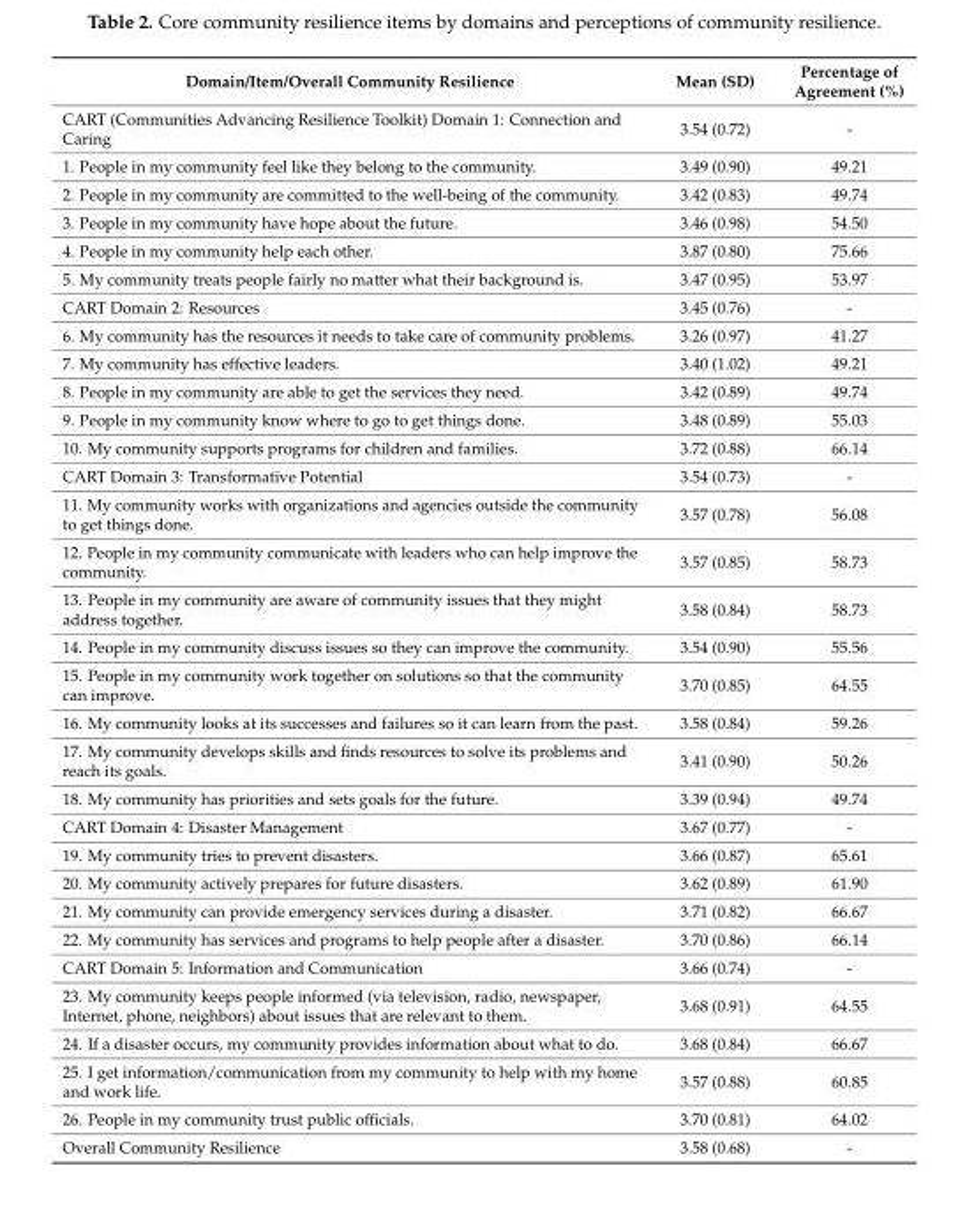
<table><thead><tr><td>Domain/Item/Overall Community Resilience</td><td>Mean (SD)</td><td>Percentage of Agreement (%)</td></tr></thead><tbody><tr><td>CART (Communities Advancing Resilience Toolkit) Domain 1: Connection and Caring</td><td>3.54 (0.72)</td><td>-</td></tr><tr><td>1. People in my community feel like they belong to the community.</td><td>3.49 (0.90)</td><td>49.21</td></tr><tr><td>2. People in my community are committed to the well-being of the community.</td><td>3.42 (0.83)</td><td>49.74</td></tr><tr><td>3. People in my community have hope about the future.</td><td>3.46 (0.98)</td><td>54.50</td></tr><tr><td>4. People in my community help each other.</td><td>3.87 (0.80)</td><td>75.66</td></tr><tr><td>5. My community treats people fairly no matter what their background is.</td><td>3.47 (0.95)</td><td>53.97</td></tr><tr><td>CART Domain 2: Resources</td><td>3.45 (0.76)</td><td>-</td></tr><tr><td>6. My community has the resources it needs to take care of community problems.</td><td>3.26 (0.97)</td><td>41.27</td></tr><tr><td>7. My community has effective leaders.</td><td>3.40 (1.02)</td><td>49.21</td></tr><tr><td>8. People in my community are able to get the services they need.</td><td>3.42 (0.89)</td><td>49.74</td></tr><tr><td>9. People in my community know where to go to get things done.</td><td>3.48 (0.89)</td><td>55.03</td></tr><tr><td>10. My community supports programs for children and families.</td><td>3.72 (0.88)</td><td>66.14</td></tr><tr><td>CART Domain 3: Transformative Potential</td><td>3.54 (0.73)</td><td>-</td></tr><tr><td>11. My community works with organizations and agencies outside the community to get things done.</td><td>3.57 (0.78)</td><td>56.08</td></tr><tr><td>12. People in my community communicate with leaders who can help improve the community.</td><td>3.57 (0.85)</td><td>58.73</td></tr><tr><td>13. People in my community are aware of community issues that they might address together.</td><td>3.58 (0.84)</td><td>58.73</td></tr><tr><td>14. People in my community discuss issues so they can improve the community.</td><td>3.54 (0.90)</td><td>55.56</td></tr><tr><td>15. People in my community work together on solutions so that the community can improve.</td><td>3.70 (0.85)</td><td>64.55</td></tr><tr><td>16. My community looks at its successes and failures so it can learn from the past.</td><td>3.58 (0.84)</td><td>59.26</td></tr><tr><td>17. My community develops skills and finds resources to solve its problems and reach its goals.</td><td>3.41 (0.90)</td><td>50.26</td></tr><tr><td>18. My community has priorities and sets goals for the future.</td><td>3.39 (0.94)</td><td>49.74</td></tr><tr><td>CART Domain 4: Disaster Management</td><td>3.67 (0.77)</td><td>-</td></tr><tr><td>19. My community tries to prevent disasters.</td><td>3.66 (0.87)</td><td>65.61</td></tr><tr><td>20. My community actively prepares for future disasters.</td><td>3.62 (0.89)</td><td>61.90</td></tr><tr><td>21. My community can provide emergency services during a disaster.</td><td>3.71 (0.82)</td><td>66.67</td></tr><tr><td>22. My community has services and programs to help people after a disaster.</td><td>3.70 (0.86)</td><td>66.14</td></tr><tr><td>CART Domain 5: Information and Communication</td><td>3.66 (0.74)</td><td>-</td></tr><tr><td>23. My community keeps people informed (via television, radio, newspaper, Internet, phone, neighbors) about issues that are relevant to them.</td><td>3.68 (0.91)</td><td>64.55</td></tr><tr><td>24. If a disaster occurs, my community provides information about what to do.</td><td>3.68 (0.84)</td><td>66.67</td></tr><tr><td>25. I get information/communication from my community to help with my home and work life.</td><td>3.57 (0.88)</td><td>60.85</td></tr><tr><td>26. People in my community trust public officials.</td><td>3.70 (0.81)</td><td>64.02</td></tr><tr><td>Overall Community Resilience</td><td>3.58 (0.68)</td><td>-</td></tr></tbody></table>